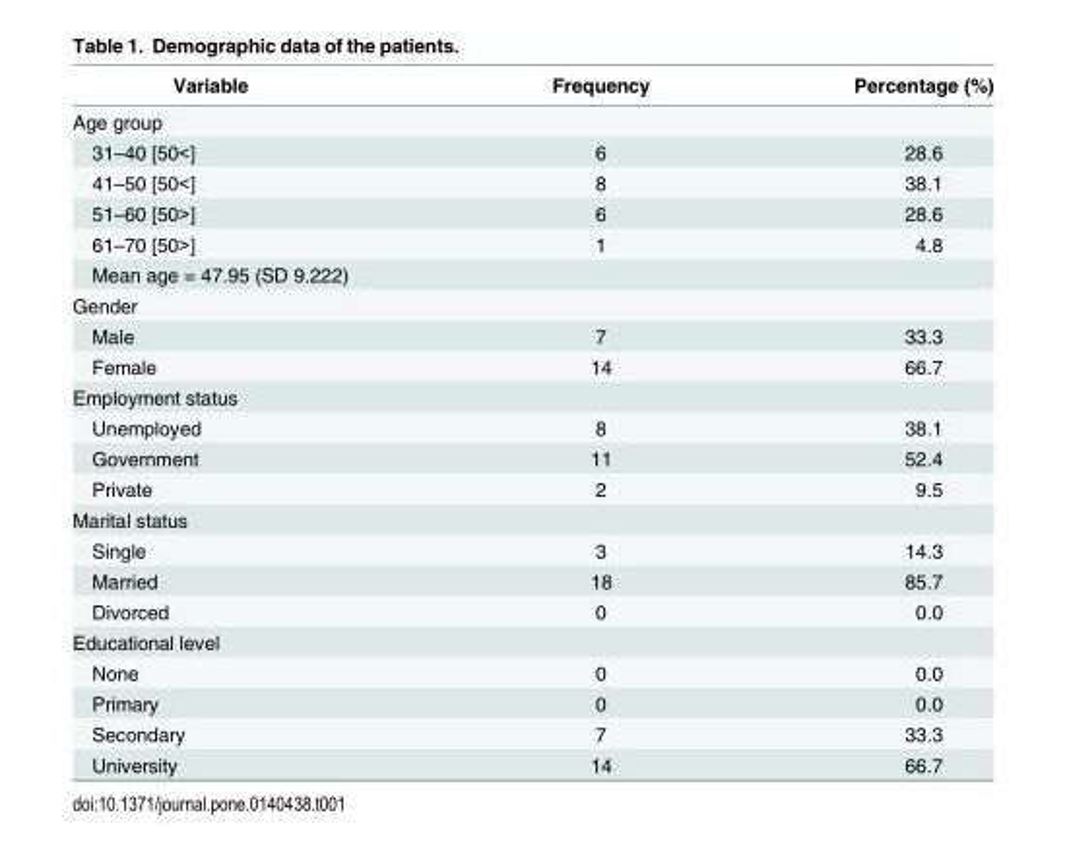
<table><thead><tr><td>Variable</td><td>Frequency</td><td>Percentage (%)</td></tr></thead><tbody><tr><td colspan="3">Age group</td></tr><tr><td>31–40 [50&lt;]</td><td>6</td><td>28.6</td></tr><tr><td>41–50 [50&lt;]</td><td>8</td><td>38.1</td></tr><tr><td>51–60 [50&gt;]</td><td>6</td><td>28.6</td></tr><tr><td>61–70 [50&gt;]</td><td>1</td><td>4.8</td></tr><tr><td colspan="3">Mean age = 47.95 (SD 9.222)</td></tr><tr><td colspan="3">Gender</td></tr><tr><td>Male</td><td>7</td><td>33.3</td></tr><tr><td>Female</td><td>14</td><td>66.7</td></tr><tr><td colspan="3">Employment status</td></tr><tr><td>Unemployed</td><td>8</td><td>38.1</td></tr><tr><td>Government</td><td>11</td><td>52.4</td></tr><tr><td>Private</td><td>2</td><td>9.5</td></tr><tr><td colspan="3">Marital status</td></tr><tr><td>Single</td><td>3</td><td>14.3</td></tr><tr><td>Married</td><td>18</td><td>85.7</td></tr><tr><td>Divorced</td><td>0</td><td>0.0</td></tr><tr><td colspan="3">Educational level</td></tr><tr><td>None</td><td>0</td><td>0.0</td></tr><tr><td>Primary</td><td>0</td><td>0.0</td></tr><tr><td>Secondary</td><td>7</td><td>33.3</td></tr><tr><td>University</td><td>14</td><td>66.7</td></tr></tbody></table>